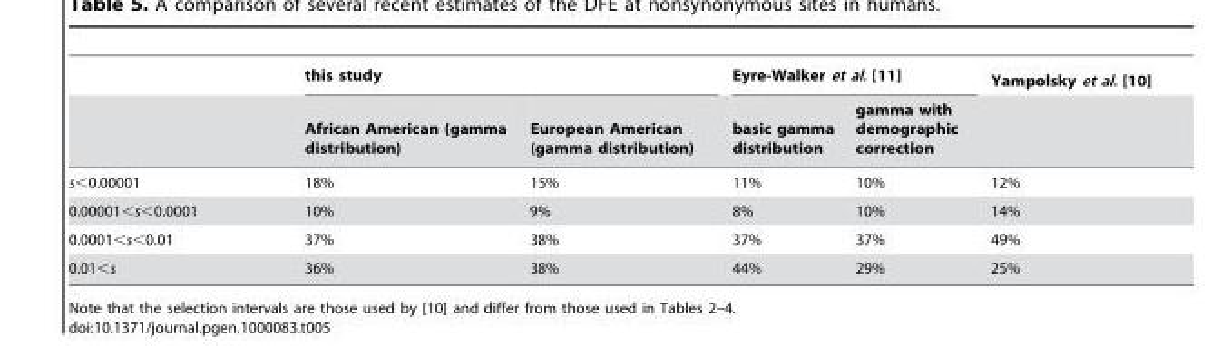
<table><thead><tr><td rowspan="2"></td><td colspan="2">this study</td><td colspan="2">Eyre-Walker et al. [11]</td><td rowspan="2">Yampolsky et al. [10]</td></tr><tr><td>African American (gamma distribution)</td><td>European American (gamma distribution)</td><td>basic gamma distribution</td><td>gamma with demographic correction</td></tr></thead><tbody><tr><td>s&lt;0.00001</td><td>18%</td><td>15%</td><td>11%</td><td>10%</td><td>12%</td></tr><tr><td>0.00001&lt;s&lt;0.0001</td><td>10%</td><td>9%</td><td>8%</td><td>10%</td><td>14%</td></tr><tr><td>0.0001&lt;s&lt;0.01</td><td>37%</td><td>38%</td><td>37%</td><td>37%</td><td>49%</td></tr><tr><td>0.01&lt;s</td><td>36%</td><td>38%</td><td>44%</td><td>29%</td><td>25%</td></tr></tbody></table>